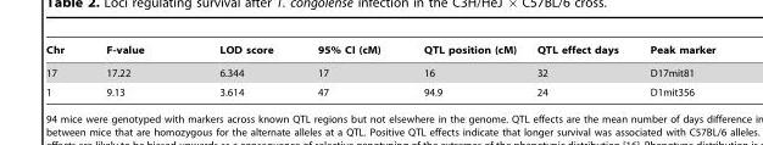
<table><thead><tr><td>Chr</td><td>F-value</td><td>LOD score</td><td>95% CI (cM)</td><td>QTL position (cM)</td><td>QTL effect days</td><td>Peak marker</td></tr></thead><tbody><tr><td>17</td><td>17.22</td><td>6.344</td><td>17</td><td>16</td><td>32</td><td>D17mit81</td></tr><tr><td>1</td><td>9.13</td><td>3.614</td><td>47</td><td>94.9</td><td>24</td><td>D1mit356</td></tr></tbody></table>